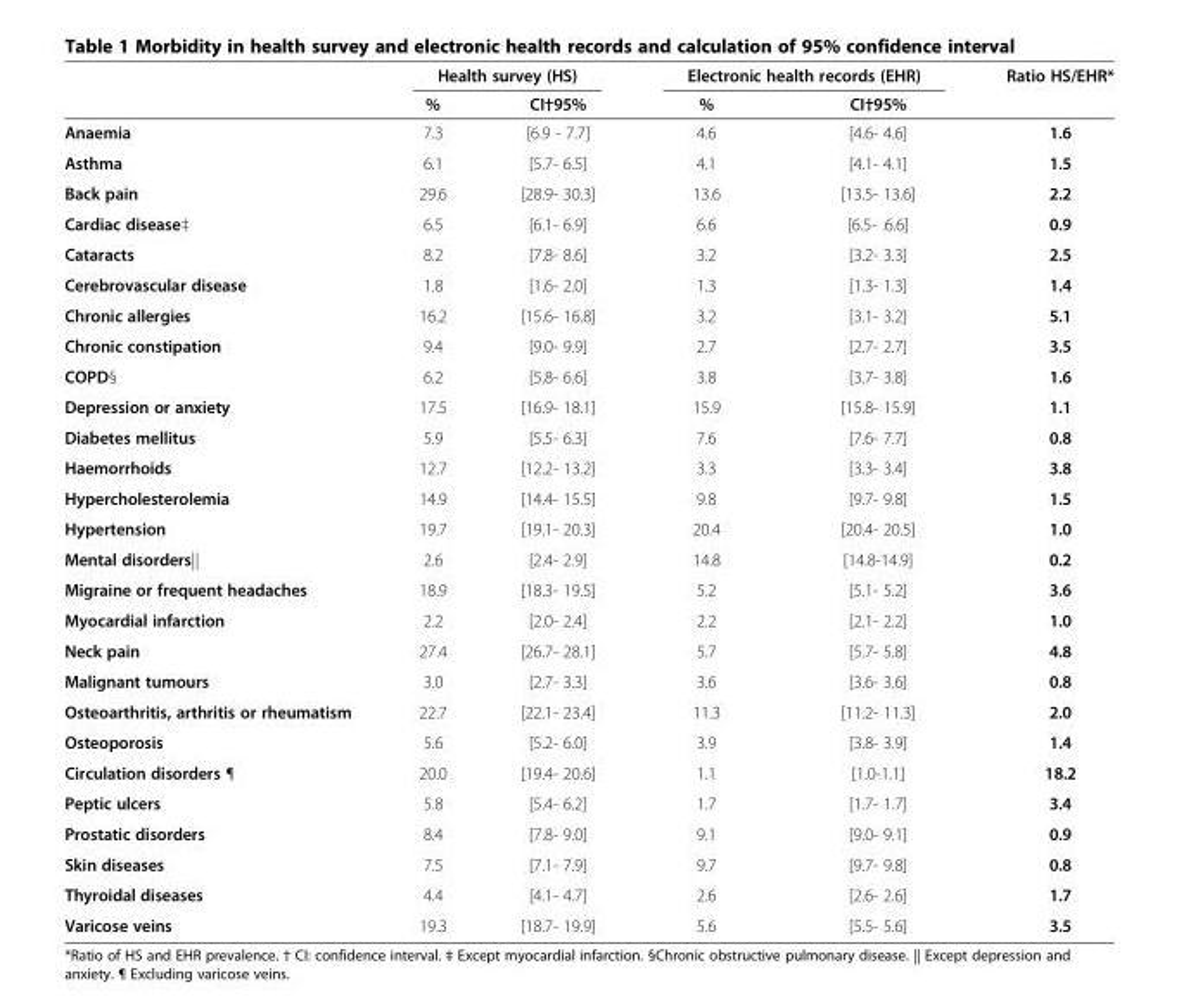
<table><thead><tr><td rowspan="2"></td><td colspan="2">Health survey (HS)</td><td colspan="2">Electronic health records (EHR)</td><td rowspan="2">Ratio HS/EHR*</td></tr><tr><td>%</td><td>CI†95%</td><td>%</td><td>CI†95%</td></tr></thead><tbody><tr><td>Anaemia</td><td>7.3</td><td>[6.9 - 7.7]</td><td>4.6</td><td>[4.6- 4.6]</td><td>1.6</td></tr><tr><td>Asthma</td><td>6.1</td><td>[5.7- 6.5]</td><td>4.1</td><td>[4.1- 4.1]</td><td>1.5</td></tr><tr><td>Back pain</td><td>29.6</td><td>[28.9- 30.3]</td><td>13.6</td><td>[13.5- 13.6]</td><td>2.2</td></tr><tr><td>Cardiac disease‡</td><td>6.5</td><td>[6.1- 6.9]</td><td>6.6</td><td>[6.5- .6.6]</td><td>0.9</td></tr><tr><td>Cataracts</td><td>8.2</td><td>[7.8- 8.6]</td><td>3.2</td><td>[3.2- 3.3]</td><td>2.5</td></tr><tr><td>Cerebrovascular disease</td><td>1.8</td><td>[1.6- 2.0]</td><td>1.3</td><td>[1.3- 1.3]</td><td>1.4</td></tr><tr><td>Chronic allergies</td><td>16.2</td><td>[15.6- 16.8]</td><td>3.2</td><td>[3.1- 3.2]</td><td>5.1</td></tr><tr><td>Chronic constipation</td><td>9.4</td><td>[9.0- 9.9]</td><td>2.7</td><td>[2.7- 2.7]</td><td>3.5</td></tr><tr><td>COPD§</td><td>6.2</td><td>[5.8- 6.6]</td><td>3.8</td><td>[3.7- 3.8]</td><td>1.6</td></tr><tr><td>Depression or anxiety</td><td>17.5</td><td>[16.9- 18.1]</td><td>15.9</td><td>[15.8- 15.9]</td><td>1.1</td></tr><tr><td>Diabetes mellitus</td><td>5.9</td><td>[5.5- 6.3]</td><td>7.6</td><td>[7.6- 7.7]</td><td>0.8</td></tr><tr><td>Haemorrhoids</td><td>12.7</td><td>[12.2- 13.2]</td><td>3.3</td><td>[3.3- 3.4]</td><td>3.8</td></tr><tr><td>Hypercholesterolemia</td><td>14.9</td><td>[14.4- 15.5]</td><td>9.8</td><td>[9.7- 9.8]</td><td>1.5</td></tr><tr><td>Hypertension</td><td>19.7</td><td>[19.1- 20.3]</td><td>20.4</td><td>[20.4- 20.5]</td><td>1.0</td></tr><tr><td>Mental disorders||</td><td>2.6</td><td>[2.4- 2.9]</td><td>14.8</td><td>[14.8-14.9]</td><td>0.2</td></tr><tr><td>Migraine or frequent headaches</td><td>18.9</td><td>[18.3- 19.5]</td><td>5.2</td><td>[5.1- 5.2]</td><td>3.6</td></tr><tr><td>Myocardial infarction</td><td>2.2</td><td>[2.0- 2.4]</td><td>2.2</td><td>[2.1- 2.2]</td><td>1.0</td></tr><tr><td>Neck pain</td><td>27.4</td><td>[26.7- 28.1]</td><td>5.7</td><td>[5.7- 5.8]</td><td>4.8</td></tr><tr><td>Malignant tumours</td><td>3.0</td><td>[2.7- 3.3]</td><td>3.6</td><td>[3.6- 3.6]</td><td>0.8</td></tr><tr><td>Osteoarthritis, arthritis or rheumatism</td><td>22.7</td><td>[22.1- 23.4]</td><td>11.3</td><td>[11.2- 11.3]</td><td>2.0</td></tr><tr><td>Osteoporosis</td><td>5.6</td><td>[5.2- 6.0]</td><td>3.9</td><td>[3.8- 3.9]</td><td>1.4</td></tr><tr><td>Circulation disorders ¶</td><td>20.0</td><td>[19.4- 20.6]</td><td>1.1</td><td>[1.0-1.1]</td><td>18.2</td></tr><tr><td>Peptic ulcers</td><td>5.8</td><td>[5.4- 6.2]</td><td>1.7</td><td>[1.7- 1.7]</td><td>3.4</td></tr><tr><td>Prostatic disorders</td><td>8.4</td><td>[7.8- 9.0]</td><td>9.1</td><td>[9.0- 9.1]</td><td>0.9</td></tr><tr><td>Skin diseases</td><td>7.5</td><td>[7.1- 7.9]</td><td>9.7</td><td>[9.7- 9.8]</td><td>0.8</td></tr><tr><td>Thyroidal diseases</td><td>4.4</td><td>[4.1- 4.7]</td><td>2.6</td><td>[2.6- 2.6]</td><td>1.7</td></tr><tr><td>Varicose veins</td><td>19.3</td><td>[18.7- 19.9]</td><td>5.6</td><td>[5.5- 5.6]</td><td>3.5</td></tr></tbody></table>